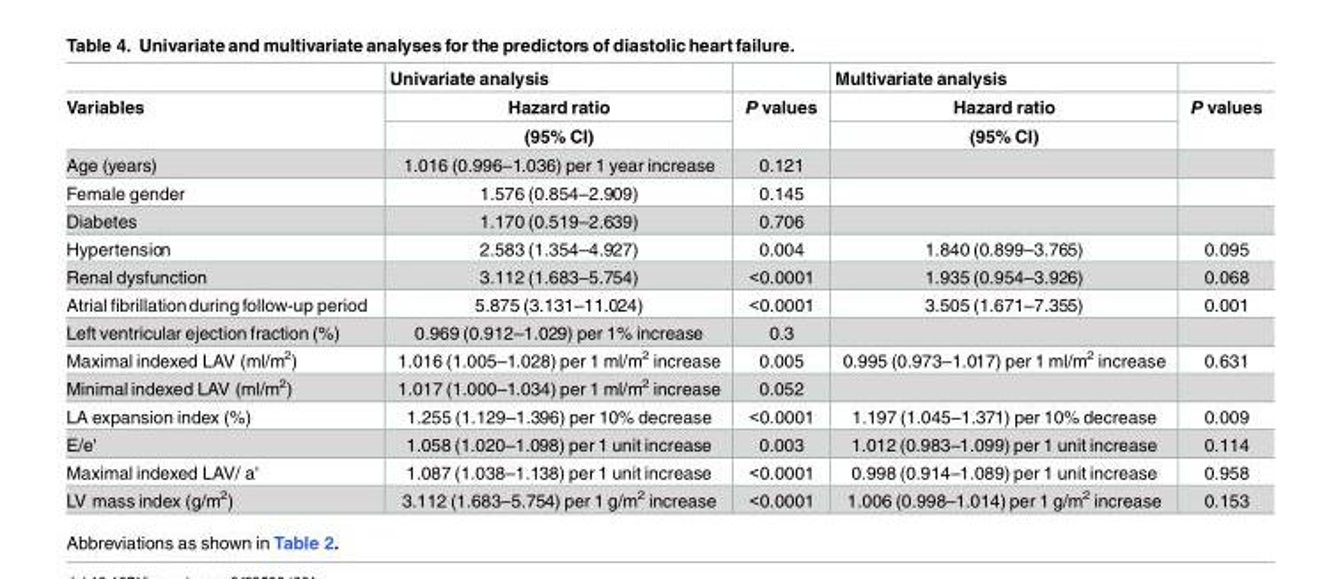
<table><thead><tr><td rowspan="3">Variables</td><td rowspan="3">Univariate analysis Hazard ratio (95% CI)</td><td rowspan="3">P values</td><td rowspan="3">Multivariate analysis Hazard ratio (95% CI)</td><td rowspan="3">P values</td></tr><tr></tr><tr></tr></thead><tbody><tr><td>Age (years)</td><td>1.016 (0.996–1.036) per 1 year increase</td><td>0.121</td><td></td><td></td></tr><tr><td>Female gender</td><td>1.576 (0.854–2.909)</td><td>0.145</td><td></td><td></td></tr><tr><td>Diabetes</td><td>1.170 (0.519–2.639)</td><td>0.706</td><td></td><td></td></tr><tr><td>Hypertension</td><td>2.583 (1.354–4.927)</td><td>0.004</td><td>1.840 (0.899–3.765)</td><td>0.095</td></tr><tr><td>Renal dysfunction</td><td>3.112 (1.683–5.754)</td><td>&lt;0.0001</td><td>1.935 (0.954–3.926)</td><td>0.068</td></tr><tr><td>Atrial fibrillation during follow-up period</td><td>5.875 (3.131–11.024)</td><td>&lt;0.0001</td><td>3.505 (1.671–7.355)</td><td>0.001</td></tr><tr><td>Left ventricular ejection fraction (%)</td><td>0.969 (0.912–1.029) per 1% increase</td><td>0.3</td><td></td><td></td></tr><tr><td>Maximal indexed LAV (ml/m<sup>2</sup>)</td><td>1.016 (1.005–1.028) per 1 ml/m<sup>2</sup> increase</td><td>0.005</td><td>0.995 (0.973–1.017) per 1 ml/m<sup>2</sup> increase</td><td>0.631</td></tr><tr><td>Minimal indexed LAV (ml/m<sup>2</sup>)</td><td>1.017 (1.000–1.034) per 1 ml/m<sup>2</sup> increase</td><td>0.052</td><td></td><td></td></tr><tr><td>LA expansion index (%)</td><td>1.255 (1.129–1.396) per 10% decrease</td><td>&lt;0.0001</td><td>1.197 (1.045–1.371) per 10% decrease</td><td>0.009</td></tr><tr><td>E/e&#x27;</td><td>1.058 (1.020–1.098) per 1 unit increase</td><td>0.003</td><td>1.012 (0.983–1.099) per 1 unit increase</td><td>0.114</td></tr><tr><td>Maximal indexed LAV/ a&#x27;</td><td>1.087 (1.038–1.138) per 1 unit increase</td><td>&lt;0.0001</td><td>0.998 (0.914–1.089) per 1 unit increase</td><td>0.958</td></tr><tr><td>LV mass index (g/m<sup>2</sup>)</td><td>3.112 (1.683–5.754) per 1 g/m<sup>2</sup> increase</td><td>&lt;0.0001</td><td>1.006 (0.998–1.014) per 1 g/m<sup>2</sup> increase</td><td>0.153</td></tr></tbody></table>